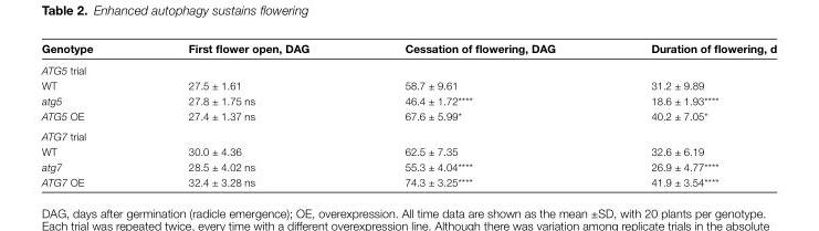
<table><thead><tr><td>Genotype</td><td>First flower open, DAG</td><td>Cessation of flowering, DAG</td><td>Duration of flowering, d</td></tr></thead><tbody><tr><td colspan="4">ATG5 trial</td></tr><tr><td>WT</td><td>27.5 ± 1.61</td><td>58.7 ± 9.61</td><td>31.2 ± 9.89</td></tr><tr><td>atg5</td><td>27.8 ± 1.75 ns</td><td>46.4 ± 1.72****</td><td>18.6 ± 1.93****</td></tr><tr><td>ATG5 OE</td><td>27.4 ± 1.37 ns</td><td>67.6 ± 5.99*</td><td>40.2 ± 7.05*</td></tr><tr><td colspan="4">ATG7 trial</td></tr><tr><td>WT</td><td>30.0 ± 4.36</td><td>62.5 ± 7.35</td><td>32.6 ± 6.19</td></tr><tr><td>atg7</td><td>28.5 ± 4.02 ns</td><td>55.3 ± 4.04****</td><td>26.9 ± 4.77****</td></tr><tr><td>ATG7 OE</td><td>32.4 ± 3.28 ns</td><td>74.3 ± 3.25****</td><td>41.9 ± 3.54****</td></tr></tbody></table>